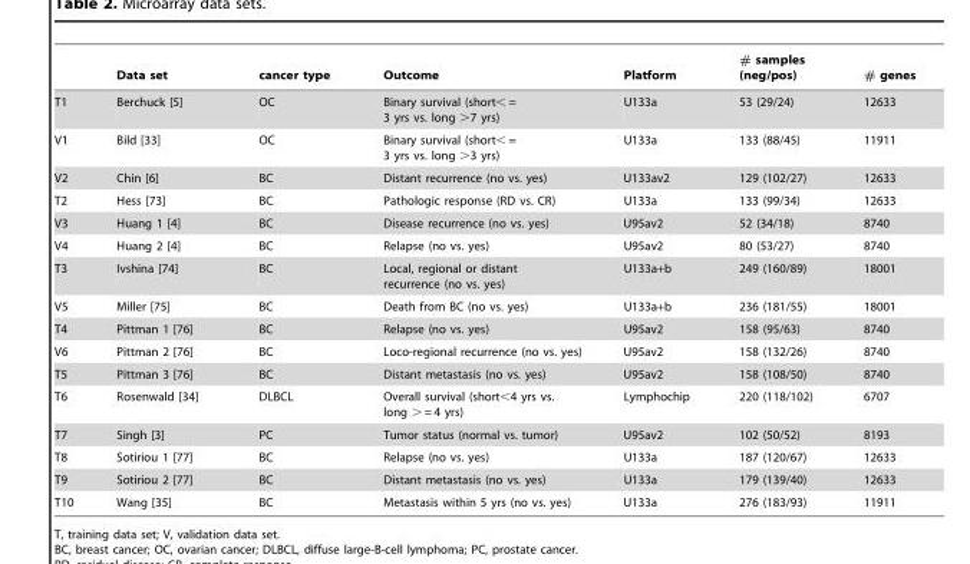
<table><thead><tr><td></td><td>Data set</td><td>cancer type</td><td>Outcome</td><td>Platform</td><td># samples (neg/pos)</td><td># genes</td></tr></thead><tbody><tr><td>T1</td><td>Berchuck [5]</td><td>OC</td><td>Binary survival (short&lt; = 3 yrs vs. long &gt;7 yrs)</td><td>U133a</td><td>53 (29/24)</td><td>12633</td></tr><tr><td>V1</td><td>Bild [33]</td><td>OC</td><td>Binary survival (short&lt; = 3 yrs vs. long &gt;3 yrs)</td><td>U133a</td><td>133 (88/45)</td><td>11911</td></tr><tr><td>V2</td><td>Chin [6]</td><td>BC</td><td>Distant recurrence (no vs. yes)</td><td>U133av2</td><td>129 (102/27)</td><td>12633</td></tr><tr><td>T2</td><td>Hess [73]</td><td>BC</td><td>Pathologic response (RD vs. CR)</td><td>U133a</td><td>133 (99/34)</td><td>12633</td></tr><tr><td>V3</td><td>Huang 1 [4]</td><td>BC</td><td>Disease recurrence (no vs. yes)</td><td>U95av2</td><td>52 (34/18)</td><td>8740</td></tr><tr><td>V4</td><td>Huang 2 [4]</td><td>BC</td><td>Relapse (no vs. yes)</td><td>U95av2</td><td>80 (53/27)</td><td>8740</td></tr><tr><td>T3</td><td>Ivshina [74]</td><td>BC</td><td>Local, regional or distant recurrence (no vs. yes)</td><td>U133a+b</td><td>249 (160/89)</td><td>18001</td></tr><tr><td>V5</td><td>Miller [75]</td><td>BC</td><td>Death from BC (no vs. yes)</td><td>U133a+b</td><td>236 (181/55)</td><td>18001</td></tr><tr><td>T4</td><td>Pittman 1 [76]</td><td>BC</td><td>Relapse (no vs. yes)</td><td>U95av2</td><td>158 (95/63)</td><td>8740</td></tr><tr><td>V6</td><td>Pittman 2 [76]</td><td>BC</td><td>Loco-regional recurrence (no vs. yes)</td><td>U95av2</td><td>158 (132/26)</td><td>8740</td></tr><tr><td>T5</td><td>Pittman 3 [76]</td><td>BC</td><td>Distant metastasis (no vs. yes)</td><td>U95av2</td><td>158 (108/50)</td><td>8740</td></tr><tr><td>T6</td><td>Rosenwald [34]</td><td>DLBCL</td><td>Overall survival (short&lt;4 yrs vs. long &gt; = 4 yrs)</td><td>Lymphochip</td><td>220 (118/102)</td><td>6707</td></tr><tr><td>T7</td><td>Singh [3]</td><td>PC</td><td>Tumor status (normal vs. tumor)</td><td>U95av2</td><td>102 (50/52)</td><td>8193</td></tr><tr><td>T8</td><td>Sotiriou 1 [77]</td><td>BC</td><td>Relapse (no vs. yes)</td><td>U133a</td><td>187 (120/67)</td><td>12633</td></tr><tr><td>T9</td><td>Sotiriou 2 [77]</td><td>BC</td><td>Distant metastasis (no vs. yes)</td><td>U133a</td><td>179 (139/40)</td><td>12633</td></tr><tr><td>T10</td><td>Wang [35]</td><td>BC</td><td>Metastasis within 5 yrs (no vs. yes)</td><td>U133a</td><td>276 (183/93)</td><td>11911</td></tr></tbody></table>